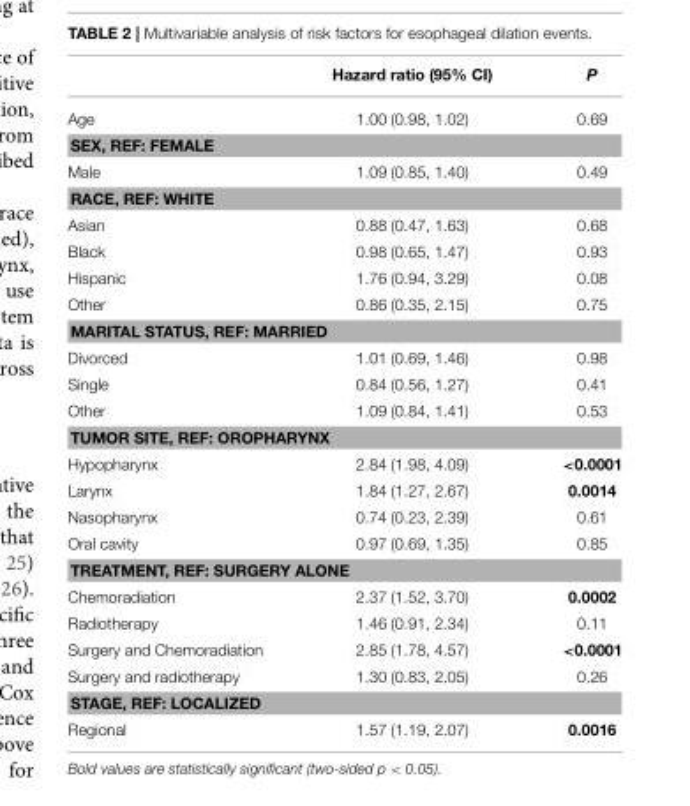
<table><thead><tr><td></td><td>Hazard ratio (95% CI)</td><td>P</td></tr></thead><tbody><tr><td>Age</td><td>1.00 (0.98, 1.02)</td><td>0.69</td></tr><tr><td colspan="3">SEX, REF: FEMALE</td></tr><tr><td>Male</td><td>1.09 (0.85, 1.40)</td><td>0.49</td></tr><tr><td colspan="3">RACE, REF: WHITE</td></tr><tr><td>Asian</td><td>0.88 (0.47, 1.63)</td><td>0.68</td></tr><tr><td>Black</td><td>0.98 (0.65, 1.47)</td><td>0.93</td></tr><tr><td>Hispanic</td><td>1.76 (0.94, 3.29)</td><td>0.08</td></tr><tr><td>Other</td><td>0.86 (0.35, 2.15)</td><td>0.75</td></tr><tr><td colspan="3">MARITAL STATUS, REF: MARRIED</td></tr><tr><td>Divorced</td><td>1.01 (0.69, 1.46)</td><td>0.98</td></tr><tr><td>Single</td><td>0.84 (0.56, 1.27)</td><td>0.41</td></tr><tr><td>Other</td><td>1.09 (0.84, 1.41)</td><td>0.53</td></tr><tr><td colspan="3">TUMOR SITE, REF: OROPHARYNX</td></tr><tr><td>Hypopharynx</td><td>2.84 (1.98, 4.09)</td><td>&lt;0.0001</td></tr><tr><td>Larynx</td><td>1.84 (1.27, 2.67)</td><td>0.0014</td></tr><tr><td>Nasopharynx</td><td>0.74 (0.23, 2.39)</td><td>0.61</td></tr><tr><td>Oral cavity</td><td>0.97 (0.69, 1.35)</td><td>0.85</td></tr><tr><td colspan="3">TREATMENT, REF: SURGERY ALONE</td></tr><tr><td>Chemoradiation</td><td>2.37 (1.52, 3.70)</td><td>0.0002</td></tr><tr><td>Radiotherapy</td><td>1.46 (0.91, 2.34)</td><td>0.11</td></tr><tr><td>Surgery and Chemoradiation</td><td>2.85 (1.78, 4.57)</td><td>&lt;0.0001</td></tr><tr><td>Surgery and radiotherapy</td><td>1.30 (0.83, 2.05)</td><td>0.26</td></tr><tr><td colspan="3">STAGE, REF: LOCALIZED</td></tr><tr><td>Regional</td><td>1.57 (1.19, 2.07)</td><td>0.0016</td></tr></tbody></table>